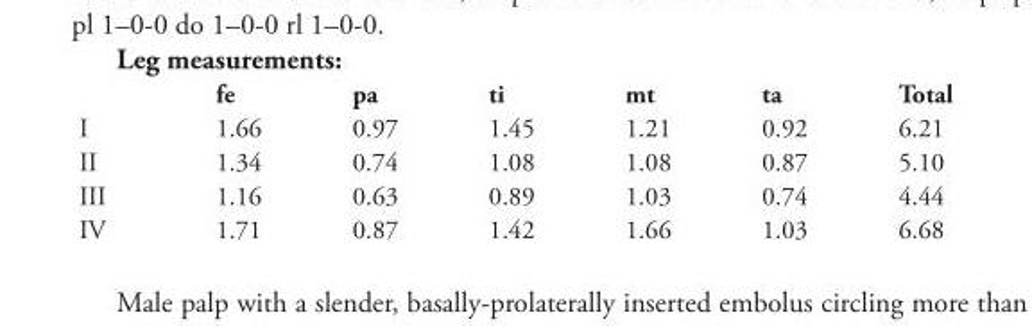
<table><thead><tr><td></td><td>fe</td><td>pa</td><td>ti</td><td>mt</td><td>ta</td><td>Total</td></tr></thead><tbody><tr><td>I</td><td>1.66</td><td>0.97</td><td>1.45</td><td>1.21</td><td>0.92</td><td>6.21</td></tr><tr><td>II</td><td>1.34</td><td>0.74</td><td>1.08</td><td>1.08</td><td>0.87</td><td>5.10</td></tr><tr><td>III</td><td>1.16</td><td>0.63</td><td>0.89</td><td>1.03</td><td>0.74</td><td>4.44</td></tr><tr><td>IV</td><td>1.71</td><td>0.87</td><td>1.42</td><td>1.66</td><td>1.03</td><td>6.68</td></tr></tbody></table>